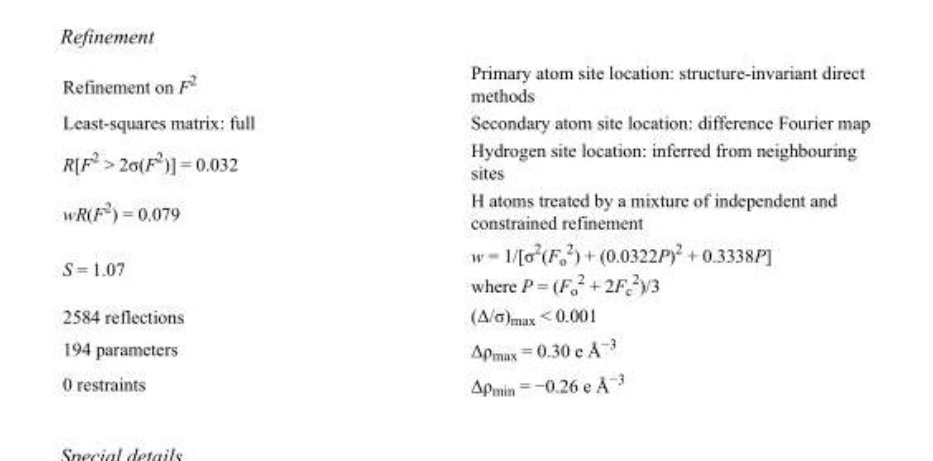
<table><tbody><tr><td>Refinement on F<sup>2</sup></td><td>Primary atom site location: structure-invariant direct methods</td></tr><tr><td>Least-squares matrix: full</td><td>Secondary atom site location: difference Fourier map</td></tr><tr><td>R[F<sup>2</sup> &gt; 2σ(F<sup>2</sup>)] = 0.032</td><td>Hydrogen site location: inferred from neighbouring sites</td></tr><tr><td>wR(F<sup>2</sup>) = 0.079</td><td>H atoms treated by a mixture of independent and constrained refinement</td></tr><tr><td>S = 1.07</td><td>w = 1/[σ<sup>2</sup>(F<sub>o</sub> <sup>2</sup>) + (0.0322P)<sup>2</sup> + 0.3338P] where P = (F<sub>o</sub> <sup>2</sup> + 2F<sub>c</sub> <sup>2</sup>)/3</td></tr><tr><td>2584 reflections</td><td>(Δ/σ)<sub>max</sub> &lt; 0.001</td></tr><tr><td>194 parameters</td><td>Δρ<sub>max</sub> = 0.30 e Å<sup>−3</sup></td></tr><tr><td>0 restraints</td><td>Δρ<sub>min</sub> = −0.26 e Å<sup>−3</sup></td></tr></tbody></table>